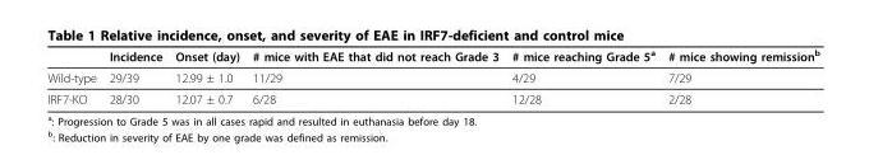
<table><thead><tr><td></td><td>Incidence</td><td>Onset (day)</td><td># mice with EAE that did not reach Grade 3</td><td># mice reaching Grade 5<sup>a</sup></td><td># mice showing remission<sup>b</sup></td></tr></thead><tbody><tr><td>Wild-type</td><td>29/39</td><td>12.99 ± 1.0</td><td>11/29</td><td>4/29</td><td>7/29</td></tr><tr><td>IRF7-KO</td><td>28/30</td><td>12.07 ± 0.7</td><td>6/28</td><td>12/28</td><td>2/28</td></tr></tbody></table>